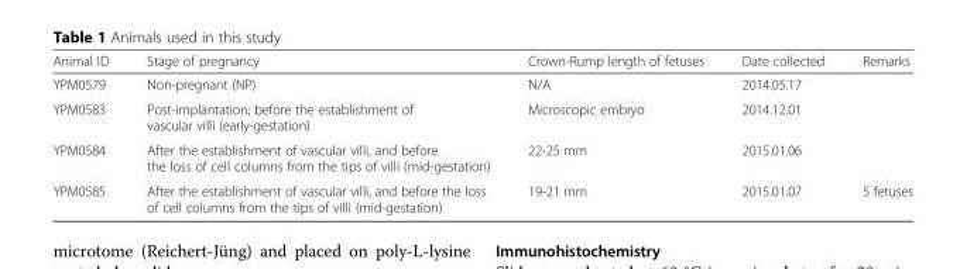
<table><thead><tr><td>Animal ID</td><td>Stage of pregnancy</td><td>Crown-Rump length of fetuses</td><td>Date collected</td><td>Remarks</td></tr></thead><tbody><tr><td>YPM0579</td><td>Non-pregnant (NP)</td><td>N/A</td><td>2014.05.17</td><td></td></tr><tr><td>YPM0583</td><td>Post-implantation; before the establishment of vascular villi (early-gestation)</td><td>Microscopic embryo</td><td>2014.12.01</td><td></td></tr><tr><td>YPM0584</td><td>After the establishment of vascular villi, and before the loss of cell columns from the tips of villi (mid-gestation)</td><td>22-25 mm</td><td>2015.01.06</td><td></td></tr><tr><td>YPM0585</td><td>After the establishment of vascular villi, and before the loss of cell columns from the tips of villi (mid-gestation)</td><td>19-21 mm</td><td>2015.01.07</td><td>5 fetuses</td></tr></tbody></table>